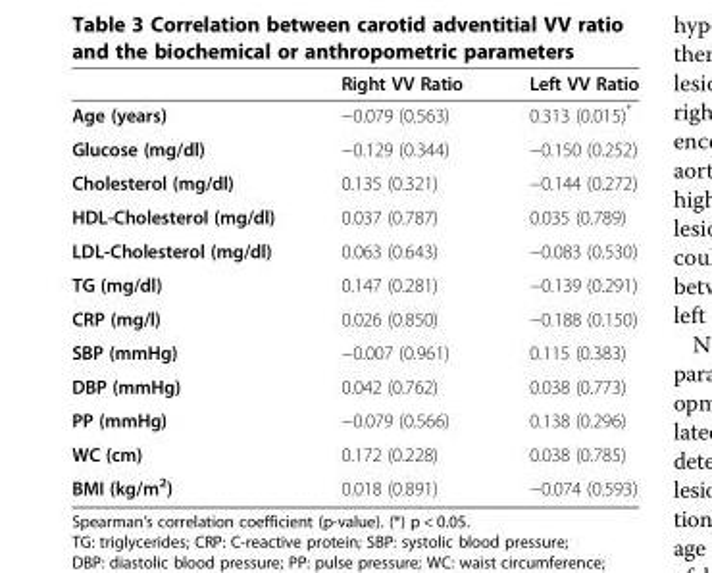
<table><thead><tr><td></td><td>Right VV Ratio</td><td>Left VV Ratio</td></tr></thead><tbody><tr><td>Age (years)</td><td>−0.079 (0.563)</td><td>0.313 (0.015)*</td></tr><tr><td>Glucose (mg/dl)</td><td>−0.129 (0.344)</td><td>−0.150 (0.252)</td></tr><tr><td>Cholesterol (mg/dl)</td><td>0.135 (0.321)</td><td>−0.144 (0.272)</td></tr><tr><td>HDL-Cholesterol (mg/dl)</td><td>0.037 (0.787)</td><td>0.035 (0.789)</td></tr><tr><td>LDL-Cholesterol (mg/dl)</td><td>0.063 (0.643)</td><td>−0.083 (0.530)</td></tr><tr><td>TG (mg/dl)</td><td>0.147 (0.281)</td><td>−0.139 (0.291)</td></tr><tr><td>CRP (mg/l)</td><td>0.026 (0.850)</td><td>−0.188 (0.150)</td></tr><tr><td>SBP (mmHg)</td><td>−0.007 (0.961)</td><td>0.115 (0.383)</td></tr><tr><td>DBP (mmHg)</td><td>0.042 (0.762)</td><td>0.038 (0.773)</td></tr><tr><td>PP (mmHg)</td><td>−0.079 (0.566)</td><td>0.138 (0.296)</td></tr><tr><td>WC (cm)</td><td>0.172 (0.228)</td><td>0.038 (0.785)</td></tr><tr><td>BMI (kg/m<sup>2</sup>)</td><td>0.018 (0.891)</td><td>−0.074 (0.593)</td></tr></tbody></table>